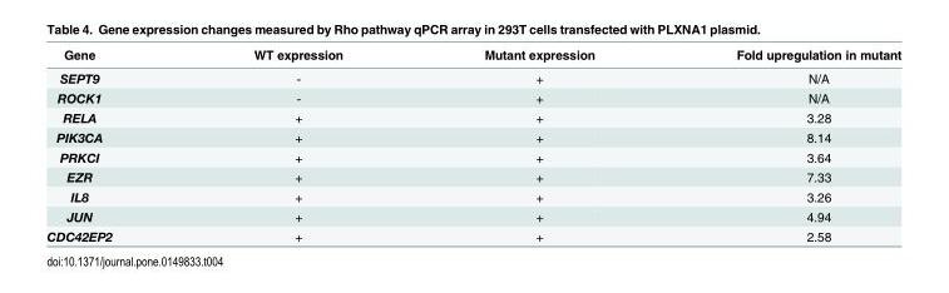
<table><thead><tr><td>Gene</td><td>WT expression</td><td>Mutant expression</td><td>Fold upregulation in mutant</td></tr></thead><tbody><tr><td>SEPT9</td><td>-</td><td>+</td><td>N/A</td></tr><tr><td>ROCK1</td><td>-</td><td>+</td><td>N/A</td></tr><tr><td>RELA</td><td>+</td><td>+</td><td>3.28</td></tr><tr><td>PIK3CA</td><td>+</td><td>+</td><td>8.14</td></tr><tr><td>PRKCI</td><td>+</td><td>+</td><td>3.64</td></tr><tr><td>EZR</td><td>+</td><td>+</td><td>7.33</td></tr><tr><td>IL8</td><td>+</td><td>+</td><td>3.26</td></tr><tr><td>JUN</td><td>+</td><td>+</td><td>4.94</td></tr><tr><td>CDC42EP2</td><td>+</td><td>+</td><td>2.58</td></tr></tbody></table>